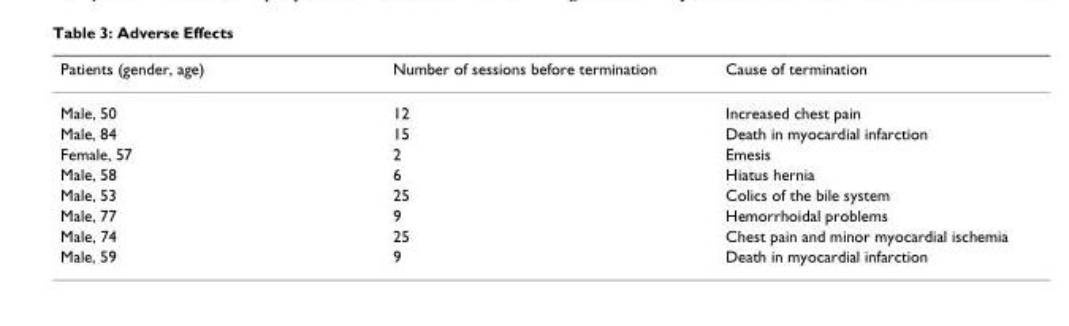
<table><thead><tr><td>Patients (gender, age)</td><td>Number of sessions before termination</td><td>Cause of termination</td></tr></thead><tbody><tr><td>Male, 50</td><td>12</td><td>Increased chest pain</td></tr><tr><td>Male, 84</td><td>15</td><td>Death in myocardial infarction</td></tr><tr><td>Female, 57</td><td>2</td><td>Emesis</td></tr><tr><td>Male, 58</td><td>6</td><td>Hiatus hernia</td></tr><tr><td>Male, 53</td><td>25</td><td>Colics of the bile system</td></tr><tr><td>Male, 77</td><td>9</td><td>Hemorrhoidal problems</td></tr><tr><td>Male, 74</td><td>25</td><td>Chest pain and minor myocardial ischemia</td></tr><tr><td>Male, 59</td><td>9</td><td>Death in myocardial infarction</td></tr></tbody></table>